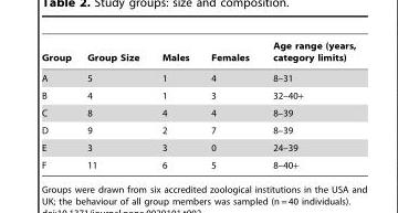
<table><thead><tr><td>Group</td><td>Group Size</td><td>Males</td><td>Females</td><td>Age range (years, category limits)</td></tr></thead><tbody><tr><td>A</td><td>5</td><td>1</td><td>4</td><td>8–31</td></tr><tr><td>B</td><td>4</td><td>1</td><td>3</td><td>32–40+</td></tr><tr><td>C</td><td>8</td><td>4</td><td>4</td><td>8–39</td></tr><tr><td>D</td><td>9</td><td>2</td><td>7</td><td>8–39</td></tr><tr><td>E</td><td>3</td><td>3</td><td>0</td><td>24–39</td></tr><tr><td>F</td><td>11</td><td>6</td><td>5</td><td>8–40+</td></tr></tbody></table>